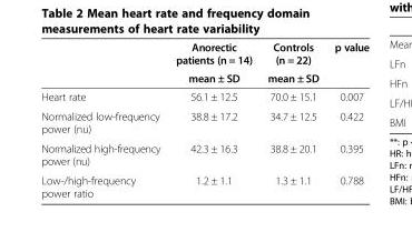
<table><thead><tr><td rowspan="2"></td><td rowspan="2">Anorectic patients (n = 14) mean ± SD</td><td rowspan="2">Controls (n = 22) mean ± SD</td><td rowspan="2">p value</td></tr><tr></tr></thead><tbody><tr><td>Heart rate</td><td>56.1 ± 12.5</td><td>70.0 ± 15.1</td><td>0.007</td></tr><tr><td>Normalized low-frequency power (nu)</td><td>38.8 ± 17.2</td><td>34.7 ± 12.5</td><td>0.422</td></tr><tr><td>Normalized high-frequency power (nu)</td><td>42.3 ± 16.3</td><td>38.8 ± 20.1</td><td>0.395</td></tr><tr><td>Low-/high-frequency power ratio</td><td>1.2 ± 1.1</td><td>1.3 ± 1.1</td><td>0.788</td></tr></tbody></table>